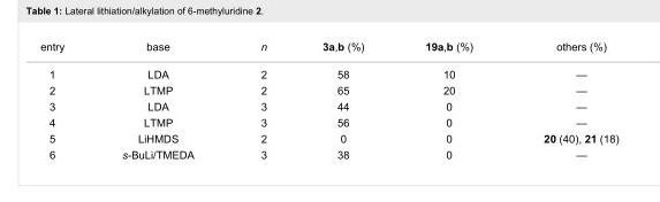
<table><tbody><tr><td>entry</td><td>base</td><td>n</td><td>3a,b (%)</td><td>19a,b (%)</td><td>others (%)</td></tr><tr><td>1</td><td>LDA</td><td>2</td><td>58</td><td>10</td><td>—</td></tr><tr><td>2</td><td>LTMP</td><td>2</td><td>65</td><td>20</td><td>—</td></tr><tr><td>3</td><td>LDA</td><td>3</td><td>44</td><td>0</td><td>—</td></tr><tr><td>4</td><td>LTMP</td><td>3</td><td>56</td><td>0</td><td>—</td></tr><tr><td>5</td><td>LiHMDS</td><td>2</td><td>0</td><td>0</td><td>20 (40), 21 (18)</td></tr><tr><td>6</td><td>s-BuLi/TMEDA</td><td>3</td><td>38</td><td>0</td><td>—</td></tr></tbody></table>